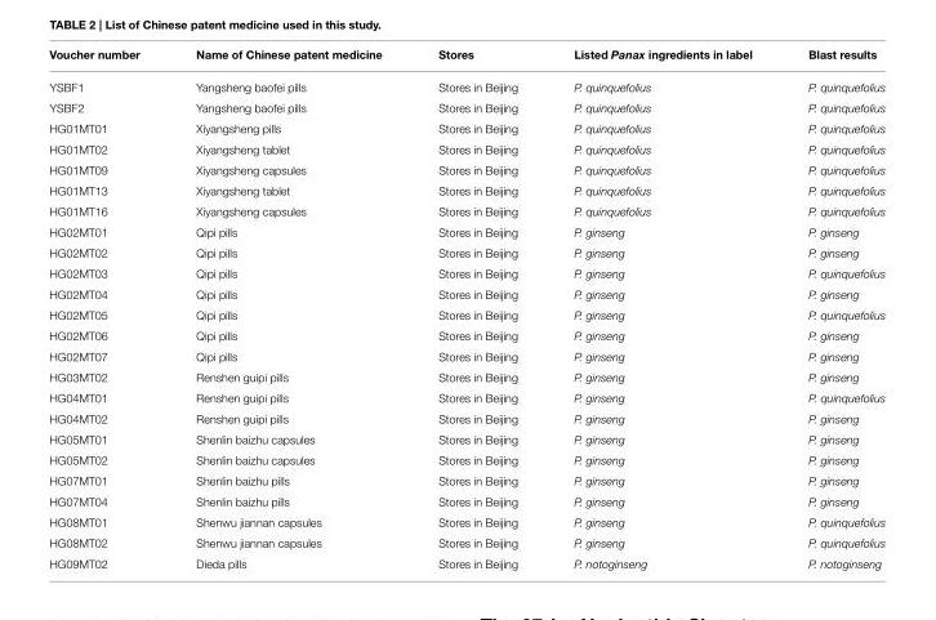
<table><thead><tr><td>Voucher number</td><td>Name of Chinese patent medicine</td><td>Stores</td><td>Listed Panax ingredients in label</td><td>Blast results</td></tr></thead><tbody><tr><td>YSBF1</td><td>Yangsheng baofei pills</td><td>Stores in Beijing</td><td>P. quinquefolius</td><td>P. quinquefolius</td></tr><tr><td>YSBF2</td><td>Yangsheng baofei pills</td><td>Stores in Beijing</td><td>P. quinquefolius</td><td>P. quinquefolius</td></tr><tr><td>HG01MT01</td><td>Xiyangsheng pills</td><td>Stores in Beijing</td><td>P. quinquefolius</td><td>P. quinquefolius</td></tr><tr><td>HG01MT02</td><td>Xiyangsheng tablet</td><td>Stores in Beijing</td><td>P. quinquefolius</td><td>P. quinquefolius</td></tr><tr><td>HG01MT09</td><td>Xiyangsheng capsules</td><td>Stores in Beijing</td><td>P. quinquefolius</td><td>P. quinquefolius</td></tr><tr><td>HG01MT13</td><td>Xiyangsheng tablet</td><td>Stores in Beijing</td><td>P. quinquefolius</td><td>P. quinquefolius</td></tr><tr><td>HG01MT16</td><td>Xiyangsheng capsules</td><td>Stores in Beijing</td><td>P. quinquefolius</td><td>P. quinquefolius</td></tr><tr><td>HG02MT01</td><td>Qipi pills</td><td>Stores in Beijing</td><td>P. ginseng</td><td>P. ginseng</td></tr><tr><td>HG02MT02</td><td>Qipi pills</td><td>Stores in Beijing</td><td>P. ginseng</td><td>P. ginseng</td></tr><tr><td>HG02MT03</td><td>Qipi pills</td><td>Stores in Beijing</td><td>P. ginseng</td><td>P. quinquefolius</td></tr><tr><td>HG02MT04</td><td>Qipi pills</td><td>Stores in Beijing</td><td>P. ginseng</td><td>P. ginseng</td></tr><tr><td>HG02MT05</td><td>Qipi pills</td><td>Stores in Beijing</td><td>P. ginseng</td><td>P. quinquefolius</td></tr><tr><td>HG02MT06</td><td>Qipi pills</td><td>Stores in Beijing</td><td>P. ginseng</td><td>P. ginseng</td></tr><tr><td>HG02MT07</td><td>Qipi pills</td><td>Stores in Beijing</td><td>P. ginseng</td><td>P. ginseng</td></tr><tr><td>HG03MT02</td><td>Renshen guipi pills</td><td>Stores in Beijing</td><td>P. ginseng</td><td>P. ginseng</td></tr><tr><td>HG04MT01</td><td>Renshen guipi pills</td><td>Stores in Beijing</td><td>P. ginseng</td><td>P. quinquefolius</td></tr><tr><td>HG04MT02</td><td>Renshen guipi pills</td><td>Stores in Beijing</td><td>P. ginseng</td><td>P. ginseng</td></tr><tr><td>HG05MT01</td><td>Shenlin baizhu capsules</td><td>Stores in Beijing</td><td>P. ginseng</td><td>P. ginseng</td></tr><tr><td>HG05MT02</td><td>Shenlin baizhu capsules</td><td>Stores in Beijing</td><td>P. ginseng</td><td>P. ginseng</td></tr><tr><td>HG07MT01</td><td>Shenlin baizhu pills</td><td>Stores in Beijing</td><td>P. ginseng</td><td>P. ginseng</td></tr><tr><td>HG07MT04</td><td>Shenlin baizhu pills</td><td>Stores in Beijing</td><td>P. ginseng</td><td>P. ginseng</td></tr><tr><td>HG08MT01</td><td>Shenwu jiannan capsules</td><td>Stores in Beijing</td><td>P. ginseng</td><td>P. quinquefolius</td></tr><tr><td>HG08MT02</td><td>Shenwu jiannan capsules</td><td>Stores in Beijing</td><td>P. ginseng</td><td>P. quinquefolius</td></tr><tr><td>HG09MT02</td><td>Dieda pills</td><td>Stores in Beijing</td><td>P. notoginseng</td><td>P. notoginseng</td></tr></tbody></table>